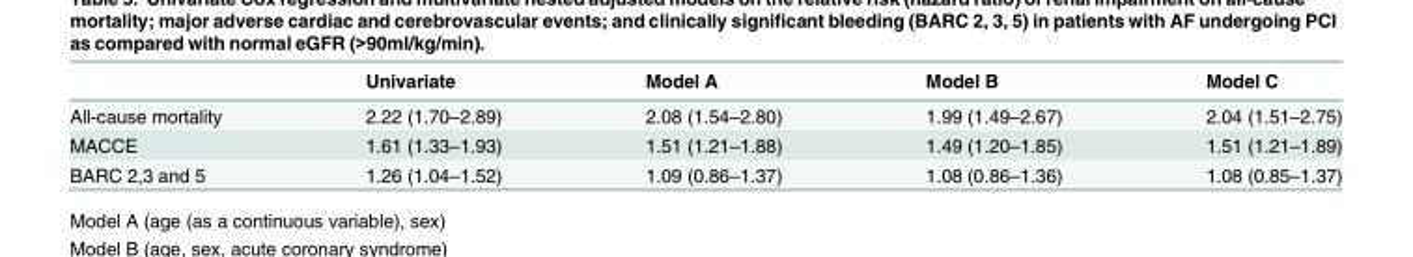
<table><thead><tr><td></td><td>Univariate</td><td>Model A</td><td>Model B</td><td>Model C</td></tr></thead><tbody><tr><td>All-cause mortality</td><td>2.22 (1.70–2.89)</td><td>2.08 (1.54–2.80)</td><td>1.99 (1.49–2.67)</td><td>2.04 (1.51–2.75)</td></tr><tr><td>MACCE</td><td>1.61 (1.33–1.93)</td><td>1.51 (1.21–1.88)</td><td>1.49 (1.20–1.85)</td><td>1.51 (1.21–1.89)</td></tr><tr><td>BARC 2,3 and 5</td><td>1.26 (1.04–1.52)</td><td>1.09 (0.86–1.37)</td><td>1.08 (0.86–1.36)</td><td>1.08 (0.85–1.37)</td></tr></tbody></table>